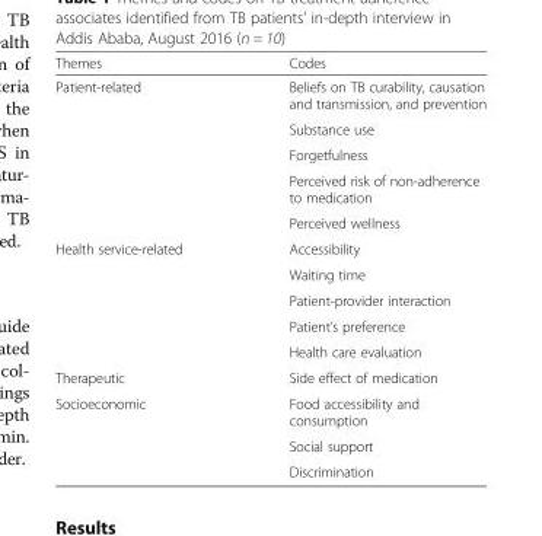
<table><thead><tr><td>Themes</td><td>Codes</td></tr></thead><tbody><tr><td rowspan="5">Patient-related</td><td>Beliefs on TB curability, causation and transmission, and prevention</td></tr><tr><td>Substance use</td></tr><tr><td>Forgetfulness</td></tr><tr><td>Perceived risk of non-adherence to medication</td></tr><tr><td>Perceived wellness</td></tr><tr><td rowspan="5">Health service-related</td><td>Accessibility</td></tr><tr><td>Waiting time</td></tr><tr><td>Patient-provider interaction</td></tr><tr><td>Patient’s preference</td></tr><tr><td>Health care evaluation</td></tr><tr><td>Therapeutic</td><td>Side effect of medication</td></tr><tr><td rowspan="3">Socioeconomic</td><td>Food accessibility and consumption</td></tr><tr><td>Social support</td></tr><tr><td>Discrimination</td></tr></tbody></table>